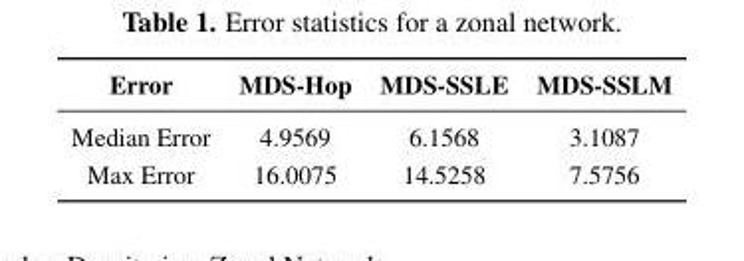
<table><thead><tr><td>Error</td><td>MDS-Hop</td><td>MDS-SSLE</td><td>MDS-SSLM</td></tr></thead><tbody><tr><td>Median Error</td><td>4.9569</td><td>6.1568</td><td>3.1087</td></tr><tr><td>Max Error</td><td>16.0075</td><td>14.5258</td><td>7.5756</td></tr></tbody></table>